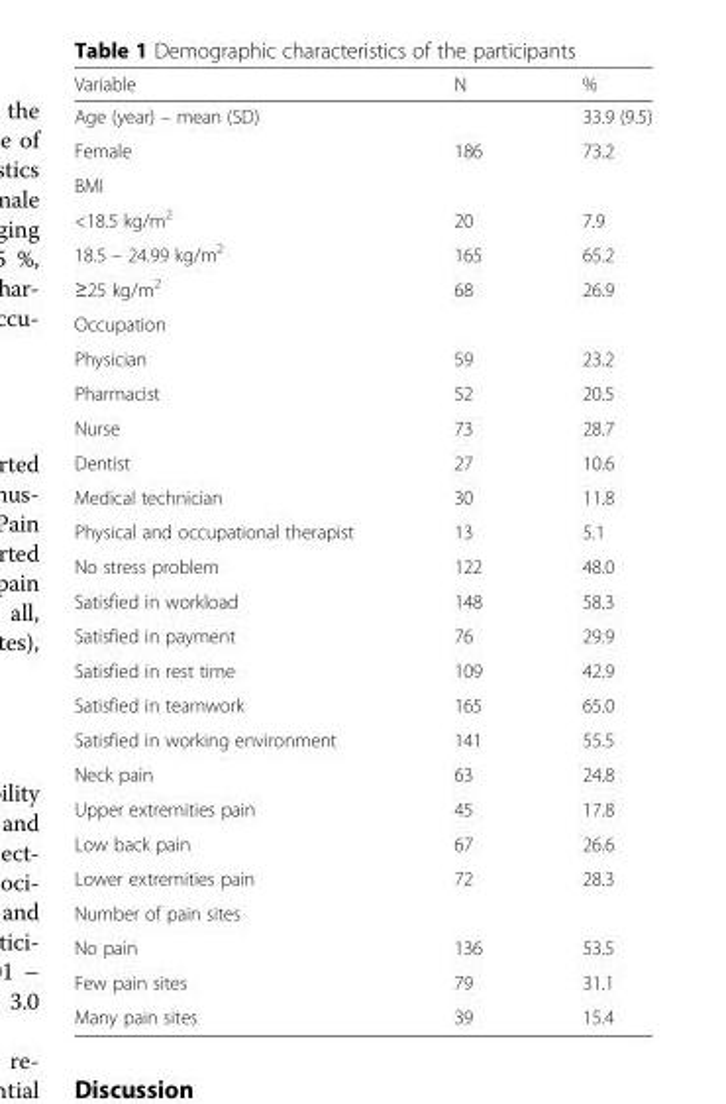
<table><thead><tr><td>Variable</td><td>N</td><td>%</td></tr></thead><tbody><tr><td>Age (year) – mean (SD)</td><td></td><td>33.9 (9.5)</td></tr><tr><td>Female</td><td>186</td><td>73.2</td></tr><tr><td colspan="3">BMI</td></tr><tr><td>&lt;18.5 kg/m<sup>2</sup></td><td>20</td><td>7.9</td></tr><tr><td>18.5 – 24.99 kg/m<sup>2</sup></td><td>165</td><td>65.2</td></tr><tr><td>≥25 kg/m<sup>2</sup></td><td>68</td><td>26.9</td></tr><tr><td colspan="3">Occupation</td></tr><tr><td>Physician</td><td>59</td><td>23.2</td></tr><tr><td>Pharmacist</td><td>52</td><td>20.5</td></tr><tr><td>Nurse</td><td>73</td><td>28.7</td></tr><tr><td>Dentist</td><td>27</td><td>10.6</td></tr><tr><td>Medical technician</td><td>30</td><td>11.8</td></tr><tr><td>Physical and occupational therapist</td><td>13</td><td>5.1</td></tr><tr><td>No stress problem</td><td>122</td><td>48.0</td></tr><tr><td>Satisfied in workload</td><td>148</td><td>58.3</td></tr><tr><td>Satisfied in payment</td><td>76</td><td>29.9</td></tr><tr><td>Satisfied in rest time</td><td>109</td><td>42.9</td></tr><tr><td>Satisfied in teamwork</td><td>165</td><td>65.0</td></tr><tr><td>Satisfied in working environment</td><td>141</td><td>55.5</td></tr><tr><td>Neck pain</td><td>63</td><td>24.8</td></tr><tr><td>Upper extremities pain</td><td>45</td><td>17.8</td></tr><tr><td>Low back pain</td><td>67</td><td>26.6</td></tr><tr><td>Lower extremities pain</td><td>72</td><td>28.3</td></tr><tr><td colspan="3">Number of pain sites</td></tr><tr><td>No pain</td><td>136</td><td>53.5</td></tr><tr><td>Few pain sites</td><td>79</td><td>31.1</td></tr><tr><td>Many pain sites</td><td>39</td><td>15.4</td></tr></tbody></table>